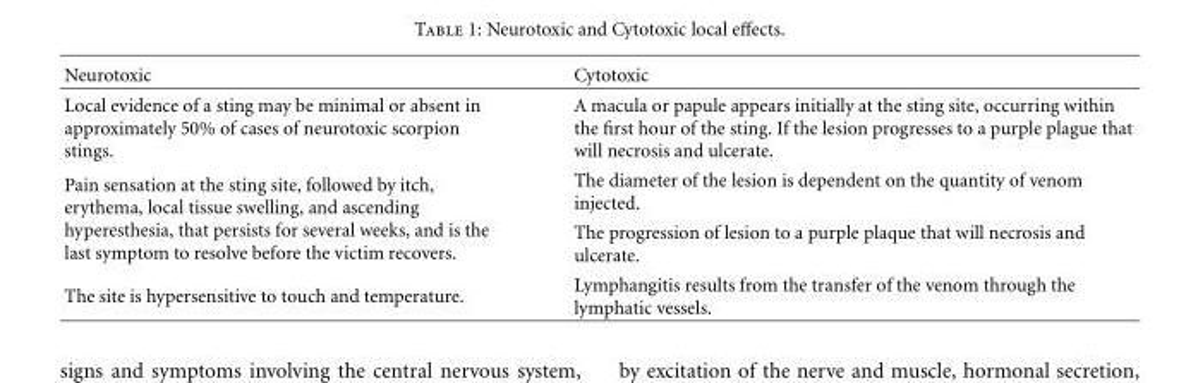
<table><thead><tr><td>Neurotoxic</td><td>Cytotoxic</td></tr></thead><tbody><tr><td>Local evidence of a sting may be minimal or absent in approximately 50% of cases of neurotoxic scorpion stings.</td><td>A macula or papule appears initially at the sting site, occurring within the first hour of the sting. If the lesion progresses to a purple plague that will necrosis and ulcerate.</td></tr><tr><td rowspan="2">Pain sensation at the sting site, followed by itch, erythema, local tissue swelling, and ascending hyperesthesia, that persists for several weeks, and is the last symptom to resolve before the victim recovers.</td><td>The diameter of the lesion is dependent on the quantity of venom injected.</td></tr><tr><td>The progression of lesion to a purple plaque that will necrosis and ulcerate.</td></tr><tr><td>The site is hypersensitive to touch and temperature.</td><td>Lymphangitis results from the transfer of the venom through the lymphatic vessels.</td></tr></tbody></table>